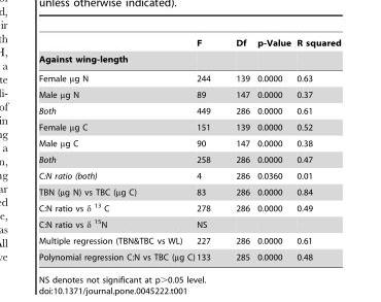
<table><thead><tr><td rowspan="2">Against wing-length</td><td rowspan="2">F</td><td rowspan="2">Df</td><td rowspan="2">p-Value</td><td rowspan="2">R squared</td></tr><tr></tr></thead><tbody><tr><td>Female µg N</td><td>244</td><td>139</td><td>0.0000</td><td>0.63</td></tr><tr><td>Male µg N</td><td>89</td><td>147</td><td>0.0000</td><td>0.37</td></tr><tr><td>Both</td><td>449</td><td>286</td><td>0.0000</td><td>0.61</td></tr><tr><td>Female µg C</td><td>151</td><td>139</td><td>0.0000</td><td>0.52</td></tr><tr><td>Male µg C</td><td>90</td><td>147</td><td>0.0000</td><td>0.38</td></tr><tr><td>Both</td><td>258</td><td>286</td><td>0.0000</td><td>0.47</td></tr><tr><td>C:N ratio (both)</td><td>4</td><td>286</td><td>0.0360</td><td>0.01</td></tr><tr><td>TBN (µg N) vs TBC (µg C)</td><td>83</td><td>286</td><td>0.0000</td><td>0.84</td></tr><tr><td>C:N ratio vs δ <sup>13</sup> C</td><td>278</td><td>286</td><td>0.0000</td><td>0.49</td></tr><tr><td>C:N ratio vs δ <sup>15</sup>N</td><td>NS</td><td></td><td></td><td></td></tr><tr><td>Multiple regression (TBN&amp;TBC vs WL)</td><td>227</td><td>286</td><td>0.0000</td><td>0.61</td></tr><tr><td>Polynomial regression C:N vs TBC (µg C)</td><td>133</td><td>285</td><td>0.0000</td><td>0.48</td></tr></tbody></table>